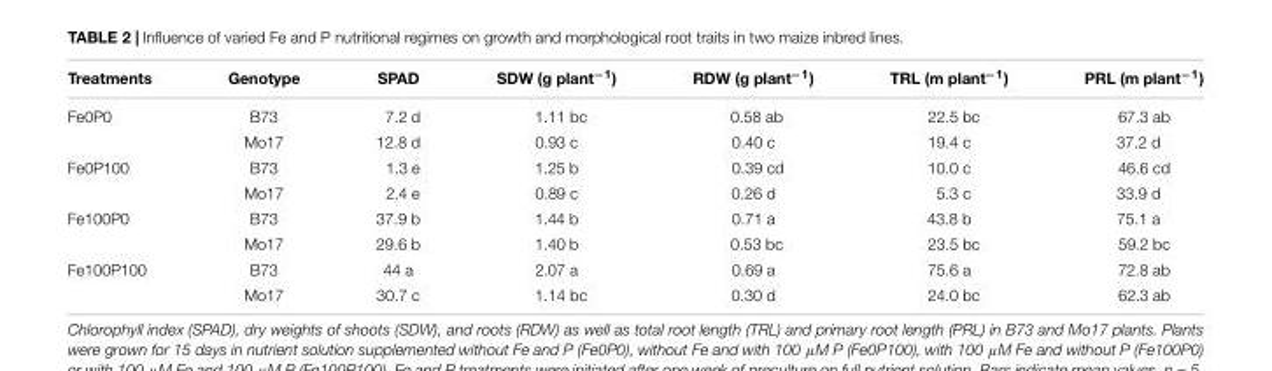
<table><thead><tr><td>Treatments</td><td>Genotype</td><td>SPAD</td><td>SDW (g plant<sup>−1</sup>)</td><td>RDW (g plant<sup>−1</sup>)</td><td>TRL (m plant<sup>−1</sup>)</td><td>PRL (m plant<sup>−1</sup>)</td></tr></thead><tbody><tr><td rowspan="2">Fe0P0</td><td>B73</td><td>7.2 d</td><td>1.11 bc</td><td>0.58 ab</td><td>22.5 bc</td><td>67.3 ab</td></tr><tr><td>Mo17</td><td>12.8 d</td><td>0.93 c</td><td>0.40 c</td><td>19.4 c</td><td>37.2 d</td></tr><tr><td rowspan="2">Fe0P100</td><td>B73</td><td>1.3 e</td><td>1.25 b</td><td>0.39 cd</td><td>10.0 c</td><td>46.6 cd</td></tr><tr><td>Mo17</td><td>2.4 e</td><td>0.89 c</td><td>0.26 d</td><td>5.3 c</td><td>33.9 d</td></tr><tr><td rowspan="2">Fe100P0</td><td>B73</td><td>37.9 b</td><td>1.44 b</td><td>0.71 a</td><td>43.8 b</td><td>75.1 a</td></tr><tr><td>Mo17</td><td>29.6 b</td><td>1.40 b</td><td>0.53 bc</td><td>23.5 bc</td><td>59.2 bc</td></tr><tr><td rowspan="2">Fe100P100</td><td>B73</td><td>44 a</td><td>2.07 a</td><td>0.69 a</td><td>75.6 a</td><td>72.8 ab</td></tr><tr><td>Mo17</td><td>30.7 c</td><td>1.14 bc</td><td>0.30 d</td><td>24.0 bc</td><td>62.3 ab</td></tr></tbody></table>